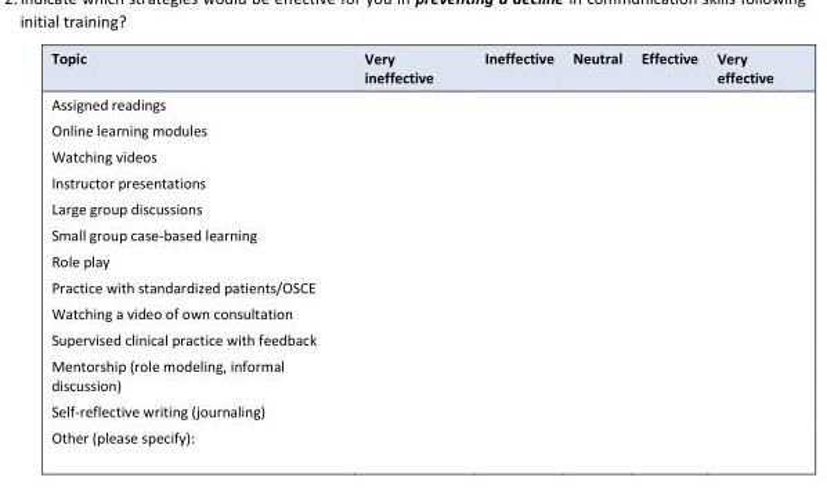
<table><thead><tr><td>Topic</td><td>Very ineffective</td><td>Ineffective</td><td>Neutral</td><td>Effective</td><td>Very effective</td></tr></thead><tbody><tr><td colspan="6">Assigned readings</td></tr><tr><td colspan="6">Online learning modules</td></tr><tr><td colspan="6">Watching videos</td></tr><tr><td colspan="6">Instructor presentations</td></tr><tr><td colspan="6">Large group discussions</td></tr><tr><td colspan="6">Small group case-based learning</td></tr><tr><td colspan="6">Role play</td></tr><tr><td colspan="6">Practice with standardized patients/OSCE</td></tr><tr><td colspan="6">Watching a video of own consultation</td></tr><tr><td colspan="6">Supervised clinical practice with feedback</td></tr><tr><td colspan="6">Mentorship (role modeling, informal discussion)</td></tr><tr><td colspan="6">Self-reflective writing (journaling)</td></tr><tr><td>Other (please specify):</td><td></td><td></td><td></td><td></td><td></td></tr></tbody></table>